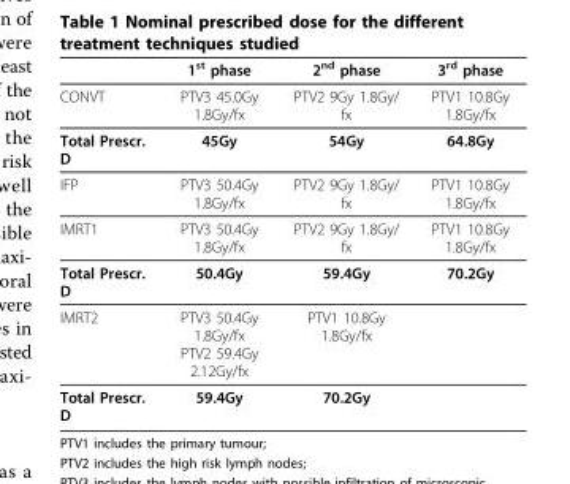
<table><thead><tr><td></td><td>1<sup>st</sup> phase</td><td>2<sup>nd</sup> phase</td><td>3<sup>rd</sup> phase</td></tr></thead><tbody><tr><td>CONVT</td><td>PTV3 45.0Gy 1.8Gy/fx</td><td>PTV2 9Gy 1.8Gy/ fx</td><td>PTV1 10.8Gy 1.8Gy/fx</td></tr><tr><td>Total Prescr. D</td><td>45Gy</td><td>54Gy</td><td>64.8Gy</td></tr><tr><td>IFP</td><td>PTV3 50.4Gy 1.8Gy/fx</td><td>PTV2 9Gy 1.8Gy/ fx</td><td>PTV1 10.8Gy 1.8Gy/fx</td></tr><tr><td>IMRT1</td><td>PTV3 50.4Gy 1.8Gy/fx</td><td>PTV2 9Gy 1.8Gy/ fx</td><td>PTV1 10.8Gy 1.8Gy/fx</td></tr><tr><td>Total Prescr. D</td><td>50.4Gy</td><td>59.4Gy</td><td>70.2Gy</td></tr><tr><td>IMRT2</td><td>PTV3 50.4Gy 1.8Gy/fx PTV2 59.4Gy 2.12Gy/fx</td><td>PTV1 10.8Gy 1.8Gy/fx</td><td></td></tr><tr><td>Total Prescr. D</td><td>59.4Gy</td><td>70.2Gy</td><td></td></tr></tbody></table>